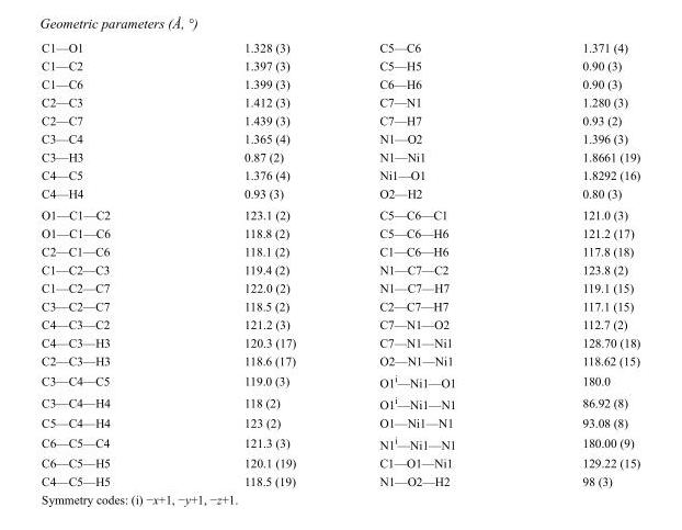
<table><tbody><tr><td>C1—O1</td><td>1.328 (3)</td><td>C5—C6</td><td>1.371 (4)</td></tr><tr><td>C1—C2</td><td>1.397 (3)</td><td>C5—H5</td><td>0.90 (3)</td></tr><tr><td>C1—C6</td><td>1.399 (3)</td><td>C6—H6</td><td>0.90 (3)</td></tr><tr><td>C2—C3</td><td>1.412 (3)</td><td>C7—N1</td><td>1.280 (3)</td></tr><tr><td>C2—C7</td><td>1.439 (3)</td><td>C7—H7</td><td>0.93 (2)</td></tr><tr><td>C3—C4</td><td>1.365 (4)</td><td>N1—O2</td><td>1.396 (3)</td></tr><tr><td>C3—H3</td><td>0.87 (2)</td><td>N1—Ni1</td><td>1.8661 (19)</td></tr><tr><td>C4—C5</td><td>1.376 (4)</td><td>Ni1—O1</td><td>1.8292 (16)</td></tr><tr><td>C4—H4</td><td>0.93 (3)</td><td>O2—H2</td><td>0.80 (3)</td></tr><tr><td>O1—C1—C2</td><td>123.1 (2)</td><td>C5—C6—C1</td><td>121.0 (3)</td></tr><tr><td>O1—C1—C6</td><td>118.8 (2)</td><td>C5—C6—H6</td><td>121.2 (17)</td></tr><tr><td>C2—C1—C6</td><td>118.1 (2)</td><td>C1—C6—H6</td><td>117.8 (18)</td></tr><tr><td>C1—C2—C3</td><td>119.4 (2)</td><td>N1—C7—C2</td><td>123.8 (2)</td></tr><tr><td>C1—C2—C7</td><td>122.0 (2)</td><td>N1—C7—H7</td><td>119.1 (15)</td></tr><tr><td>C3—C2—C7</td><td>118.5 (2)</td><td>C2—C7—H7</td><td>117.1 (15)</td></tr><tr><td>C4—C3—C2</td><td>121.2 (3)</td><td>C7—N1—O2</td><td>112.7 (2)</td></tr><tr><td>C4—C3—H3</td><td>120.3 (17)</td><td>C7—N1—Ni1</td><td>128.70 (18)</td></tr><tr><td>C2—C3—H3</td><td>118.6 (17)</td><td>O2—N1—Ni1</td><td>118.62 (15)</td></tr><tr><td>C3—C4—C5</td><td>119.0 (3)</td><td>O1<sup>i</sup>—Ni1—O1</td><td>180.0</td></tr><tr><td>C3—C4—H4</td><td>118 (2)</td><td>O1<sup>i</sup>—Ni1—N1</td><td>86.92 (8)</td></tr><tr><td>C5—C4—H4</td><td>123 (2)</td><td>O1—Ni1—N1</td><td>93.08 (8)</td></tr><tr><td>C6—C5—C4</td><td>121.3 (3)</td><td>N1<sup>i</sup>—Ni1—N1</td><td>180.00 (9)</td></tr><tr><td>C6—C5—H5</td><td>120.1 (19)</td><td>C1—O1—Ni1</td><td>129.22 (15)</td></tr><tr><td>C4—C5—H5</td><td>118.5 (19)</td><td>N1—O2—H2</td><td>98 (3)</td></tr></tbody></table>